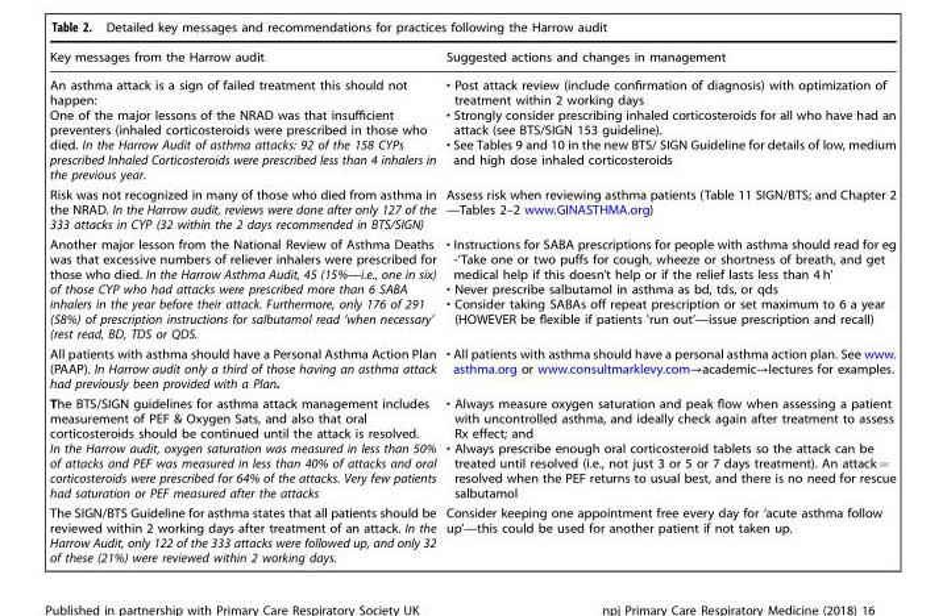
<table><thead><tr><td>Key messages from the Harrow audit</td><td>Suggested actions and changes in management</td></tr></thead><tbody><tr><td>An asthma attack is a sign of failed treatment this should not happen: One of the major lessons of the NRAD was that insufficient preventers (inhaled corticosteroids were prescribed in those who died. In the Harrow Audit of asthma attacks: 92 of the 158 CYPs prescribed Inhaled Corticosteroids were prescribed less than 4 inhalers in the previous year.</td><td>• Post attack review (include confirmation of diagnosis) with optimization of treatment within 2 working days • Strongly consider prescribing inhaled corticosteroids for all who have had an attack (see BTS/SIGN 153 guideline). • See Tables 9 and 10 in the new BTS/ SIGN Guideline for details of low, medium and high dose inhaled corticosteroids</td></tr><tr><td>Risk was not recognized in many of those who died from asthma in the NRAD. In the Harrow audit, reviews were done after only 127 of the 333 attacks in CYP (32 within the 2 days recommended in BTS/SIGN)</td><td>Assess risk when reviewing asthma patients (Table 11 SIGN/BTS; and Chapter 2 —Tables 2–2 www.GINASTHMA.org)</td></tr><tr><td>Another major lesson from the National Review of Asthma Deaths was that excessive numbers of reliever inhalers were prescribed for those who died. In the Harrow Asthma Audit, 45 (15%—i.e., one in six) of those CYP who had attacks were prescribed more than 6 SABA inhalers in the year before their attack. Furthermore, only 176 of 291 (58%) of prescription instructions for salbutamol read ‘when necessary’ (rest read, BD, TDS or QDS.</td><td>• Instructions for SABA prescriptions for people with asthma should read for eg -‘Take one or two puffs for cough, wheeze or shortness of breath, and get medical help if this doesn’t help or if the relief lasts less than 4 h’ • Never prescribe salbutamol in asthma as bd, tds, or qds • Consider taking SABAs off repeat prescription or set maximum to 6 a year (HOWEVER be flexible if patients &#x27;run out’—issue prescription and recall)</td></tr><tr><td>All patients with asthma should have a Personal Asthma Action Plan (PAAP). In Harrow audit only a third of those having an asthma attack had previously been provided with a Plan.</td><td>• All patients with asthma should have a personal asthma action plan. See www. asthma.org or www.consultmarklevy.com→academic→lectures for examples.</td></tr><tr><td>The BTS/SIGN guidelines for asthma attack management includes measurement of PEF &amp; Oxygen Sats, and also that oral corticosteroids should be continued until the attack is resolved. In the Harrow audit, oxygen saturation was measured in less than 50% of attacks and PEF was measured in less than 40% of attacks and oral corticosteroids were prescribed for 64% of the attacks. Very few patients had saturation or PEF measured after the attacks</td><td>• Always measure oxygen saturation and peak flow when assessing a patient with uncontrolled asthma, and ideally check again after treatment to assess Rx effect; and • Always prescribe enough oral corticosteroid tablets so the attack can be treated until resolved (i.e., not just 3 or 5 or 7 days treatment). An attack = resolved when the PEF returns to usual best, and there is no need for rescue salbutamol</td></tr><tr><td>The SIGN/BTS Guideline for asthma states that all patients should be reviewed within 2 working days after treatment of an attack. In the Harrow Audit, only 122 of the 333 attacks were followed up, and only 32 of these (21%) were reviewed within 2 working days.</td><td>Consider keeping one appointment free every day for ‘acute asthma follow up’—this could be used for another patient if not taken up.</td></tr></tbody></table>